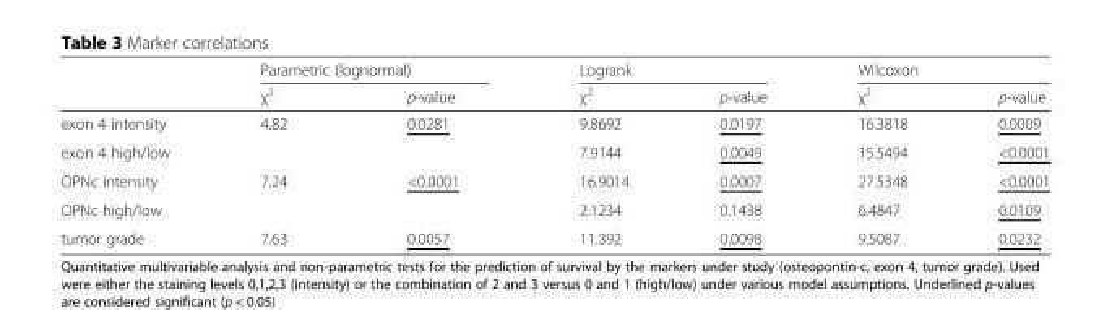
<table><thead><tr><td rowspan="2"></td><td colspan="2">Parametric (lognormal)</td><td colspan="2">Logrank</td><td colspan="2">Wilcoxon</td></tr><tr><td>χ<sup>2</sup></td><td>p-value</td><td>χ<sup>2</sup></td><td>p-value</td><td>χ<sup>2</sup></td><td>p-value</td></tr></thead><tbody><tr><td>exon 4 intensity</td><td>4.82</td><td>0.0281</td><td>9.8692</td><td>0.0197</td><td>16.3818</td><td>0.0009</td></tr><tr><td>exon 4 high/low</td><td></td><td></td><td>7.9144</td><td>0.0049</td><td>15.5494</td><td>&lt;0.0001</td></tr><tr><td>OPNc intensity</td><td>7.24</td><td>&lt;0.0001</td><td>16.9014</td><td>0.0007</td><td>27.5348</td><td>&lt;0.0001</td></tr><tr><td>OPNc high/low</td><td></td><td></td><td>2.1234</td><td>0.1438</td><td>6.4847</td><td>0.0109</td></tr><tr><td>tumor grade</td><td>7.63</td><td>0.0057</td><td>11.392</td><td>0.0098</td><td>9.5087</td><td>0.0232</td></tr></tbody></table>